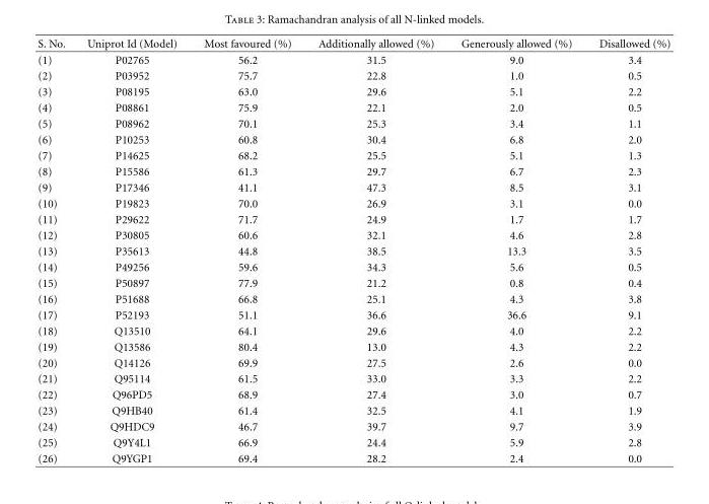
<table><thead><tr><td>S. No.</td><td>Uniprot Id (Model)</td><td>Most favoured (%)</td><td>Additionally allowed (%)</td><td>Generously allowed (%)</td><td>Disallowed (%)</td></tr></thead><tbody><tr><td>(1)</td><td>P02765</td><td>56.2</td><td>31.5</td><td>9.0</td><td>3.4</td></tr><tr><td>(2)</td><td>P03952</td><td>75.7</td><td>22.8</td><td>1.0</td><td>0.5</td></tr><tr><td>(3)</td><td>P08195</td><td>63.0</td><td>29.6</td><td>5.1</td><td>2.2</td></tr><tr><td>(4)</td><td>P08861</td><td>75.9</td><td>22.1</td><td>2.0</td><td>0.5</td></tr><tr><td>(5)</td><td>P08962</td><td>70.1</td><td>25.3</td><td>3.4</td><td>1.1</td></tr><tr><td>(6)</td><td>P10253</td><td>60.8</td><td>30.4</td><td>6.8</td><td>2.0</td></tr><tr><td>(7)</td><td>P14625</td><td>68.2</td><td>25.5</td><td>5.1</td><td>1.3</td></tr><tr><td>(8)</td><td>P15586</td><td>61.3</td><td>29.7</td><td>6.7</td><td>2.3</td></tr><tr><td>(9)</td><td>P17346</td><td>41.1</td><td>47.3</td><td>8.5</td><td>3.1</td></tr><tr><td>(10)</td><td>P19823</td><td>70.0</td><td>26.9</td><td>3.1</td><td>0.0</td></tr><tr><td>(11)</td><td>P29622</td><td>71.7</td><td>24.9</td><td>1.7</td><td>1.7</td></tr><tr><td>(12)</td><td>P30805</td><td>60.6</td><td>32.1</td><td>4.6</td><td>2.8</td></tr><tr><td>(13)</td><td>P35613</td><td>44.8</td><td>38.5</td><td>13.3</td><td>3.5</td></tr><tr><td>(14)</td><td>P49256</td><td>59.6</td><td>34.3</td><td>5.6</td><td>0.5</td></tr><tr><td>(15)</td><td>P50897</td><td>77.9</td><td>21.2</td><td>0.8</td><td>0.4</td></tr><tr><td>(16)</td><td>P51688</td><td>66.8</td><td>25.1</td><td>4.3</td><td>3.8</td></tr><tr><td>(17)</td><td>P52193</td><td>51.1</td><td>36.6</td><td>36.6</td><td>9.1</td></tr><tr><td>(18)</td><td>Q13510</td><td>64.1</td><td>29.6</td><td>4.0</td><td>2.2</td></tr><tr><td>(19)</td><td>Q13586</td><td>80.4</td><td>13.0</td><td>4.3</td><td>2.2</td></tr><tr><td>(20)</td><td>Q14126</td><td>69.9</td><td>27.5</td><td>2.6</td><td>0.0</td></tr><tr><td>(21)</td><td>Q95114</td><td>61.5</td><td>33.0</td><td>3.3</td><td>2.2</td></tr><tr><td>(22)</td><td>Q96PD5</td><td>68.9</td><td>27.4</td><td>3.0</td><td>0.7</td></tr><tr><td>(23)</td><td>Q9HB40</td><td>61.4</td><td>32.5</td><td>4.1</td><td>1.9</td></tr><tr><td>(24)</td><td>Q9HDC9</td><td>46.7</td><td>39.7</td><td>9.7</td><td>3.9</td></tr><tr><td>(25)</td><td>Q9Y4L1</td><td>66.9</td><td>24.4</td><td>5.9</td><td>2.8</td></tr><tr><td>(26)</td><td>Q9YGP1</td><td>69.4</td><td>28.2</td><td>2.4</td><td>0.0</td></tr></tbody></table>